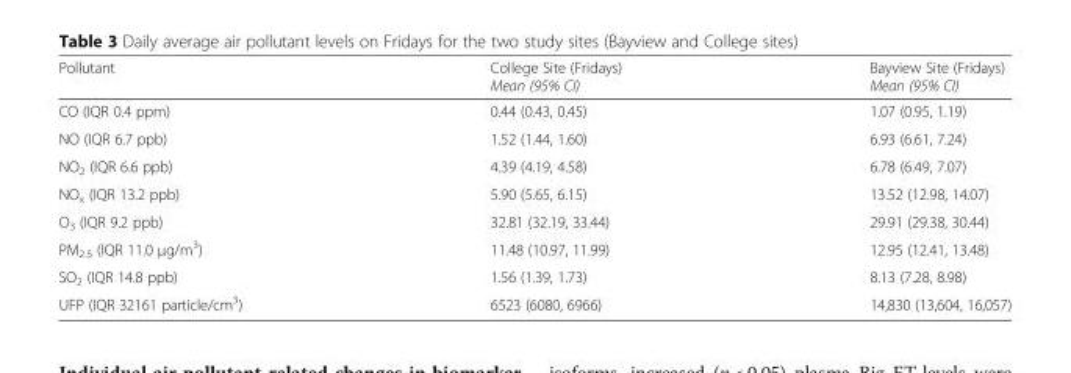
<table><thead><tr><td>Pollutant</td><td>College Site (Fridays) Mean (95% CI)</td><td>Bayview Site (Fridays) Mean (95% CI)</td></tr></thead><tbody><tr><td>CO (IQR 0.4 ppm)</td><td>0.44 (0.43, 0.45)</td><td>1.07 (0.95, 1.19)</td></tr><tr><td>NO (IQR 6.7 ppb)</td><td>1.52 (1.44, 1.60)</td><td>6.93 (6.61, 7.24)</td></tr><tr><td>NO<sub>2</sub> (IQR 6.6 ppb)</td><td>4.39 (4.19, 4.58)</td><td>6.78 (6.49, 7.07)</td></tr><tr><td>NO<sub>x</sub> (IQR 13.2 ppb)</td><td>5.90 (5.65, 6.15)</td><td>13.52 (12.98, 14.07)</td></tr><tr><td>O<sub>3</sub> (IQR 9.2 ppb)</td><td>32.81 (32.19, 33.44)</td><td>29.91 (29.38, 30.44)</td></tr><tr><td>PM<sub>2.5</sub> (IQR 11.0 μg/m<sup>3</sup>)</td><td>11.48 (10.97, 11.99)</td><td>12.95 (12.41, 13.48)</td></tr><tr><td>SO<sub>2</sub> (IQR 14.8 ppb)</td><td>1.56 (1.39, 1.73)</td><td>8.13 (7.28, 8.98)</td></tr><tr><td>UFP (IQR 32161 particle/cm<sup>3</sup>)</td><td>6523 (6080, 6966)</td><td>14,830 (13,604, 16,057)</td></tr></tbody></table>